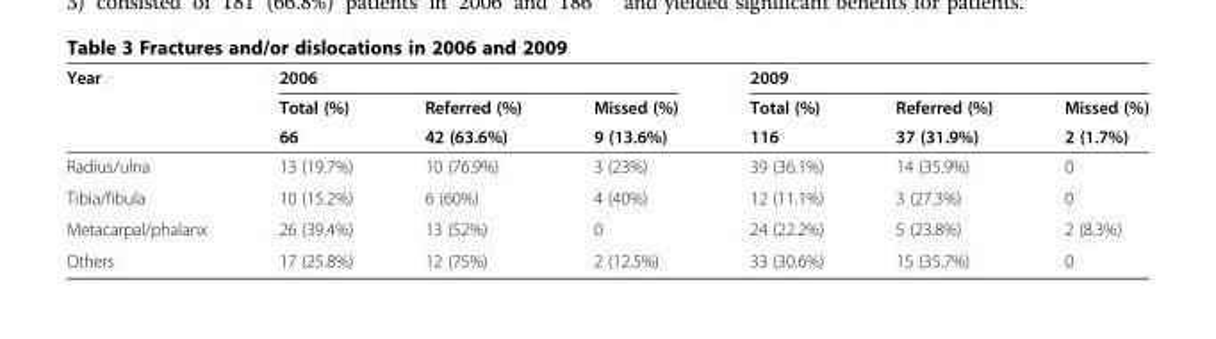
<table><thead><tr><td rowspan="3">Year</td><td colspan="3">2006</td><td colspan="3">2009</td></tr><tr><td rowspan="2">Total (%) 66</td><td rowspan="2">Referred (%) 42 (63.6%)</td><td rowspan="2">Missed (%) 9 (13.6%)</td><td rowspan="2">Total (%) 116</td><td rowspan="2">Referred (%) 37 (31.9%)</td><td rowspan="2">Missed (%) 2 (1.7%)</td></tr><tr></tr></thead><tbody><tr><td>Radius/ulna</td><td>13 (19.7%)</td><td>10 (76.9%)</td><td>3 (23%)</td><td>39 (36.1%)</td><td>14 (35.9%)</td><td>0</td></tr><tr><td>Tibia/fibula</td><td>10 (15.2%)</td><td>6 (60%)</td><td>4 (40%)</td><td>12 (11.1%)</td><td>3 (27.3%)</td><td>0</td></tr><tr><td>Metacarpal/phalanx</td><td>26 (39.4%)</td><td>13 (52%)</td><td>0</td><td>24 (22.2%)</td><td>5 (23.8%)</td><td>2 (8.3%)</td></tr><tr><td>Others</td><td>17 (25.8%)</td><td>12 (75%)</td><td>2 (12.5%)</td><td>33 (30.6%)</td><td>15 (35.7%)</td><td>0</td></tr></tbody></table>